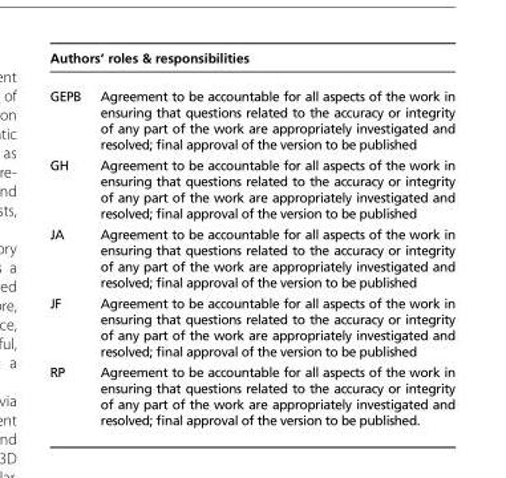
<table><thead><tr><td colspan="2">Authors’ roles &amp; responsibilities</td></tr><tr><td>GEPB</td><td>Agreement to be accountable for all aspects of the work in ensuring that questions related to the accuracy or integrity of any part of the work are appropriately investigated and resolved; final approval of the version to be published</td></tr></thead><tbody><tr><td>GH</td><td>Agreement to be accountable for all aspects of the work in ensuring that questions related to the accuracy or integrity of any part of the work are appropriately investigated and resolved; final approval of the version to be published</td></tr><tr><td>JA</td><td>Agreement to be accountable for all aspects of the work in ensuring that questions related to the accuracy or integrity of any part of the work are appropriately investigated and resolved; final approval of the version to be published</td></tr><tr><td>JF</td><td>Agreement to be accountable for all aspects of the work in ensuring that questions related to the accuracy or integrity of any part of the work are appropriately investigated and resolved; final approval of the version to be published</td></tr><tr><td>RP</td><td>Agreement to be accountable for all aspects of the work in ensuring that questions related to the accuracy or integrity of any part of the work are appropriately investigated and resolved; final approval of the version to be published.</td></tr></tbody></table>